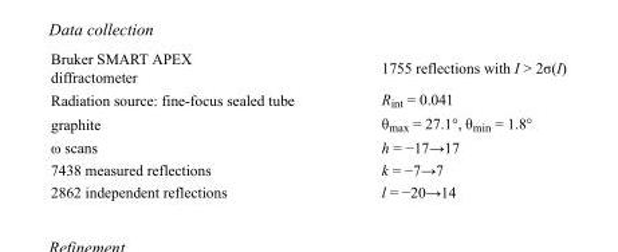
<table><tbody><tr><td>Bruker SMART APEX diffractometer</td><td>1755 reflections with I &gt; 2σ(I)</td></tr><tr><td>Radiation source: fine-focus sealed tube</td><td>R<sub>int</sub> = 0.041</td></tr><tr><td>graphite</td><td>θ<sub>max</sub> = 27.1°, θ<sub>min</sub> = 1.8°</td></tr><tr><td>ω scans</td><td>h = −17→17</td></tr><tr><td>7438 measured reflections</td><td>k = −7→7</td></tr><tr><td>2862 independent reflections</td><td>l = −20→14</td></tr></tbody></table>